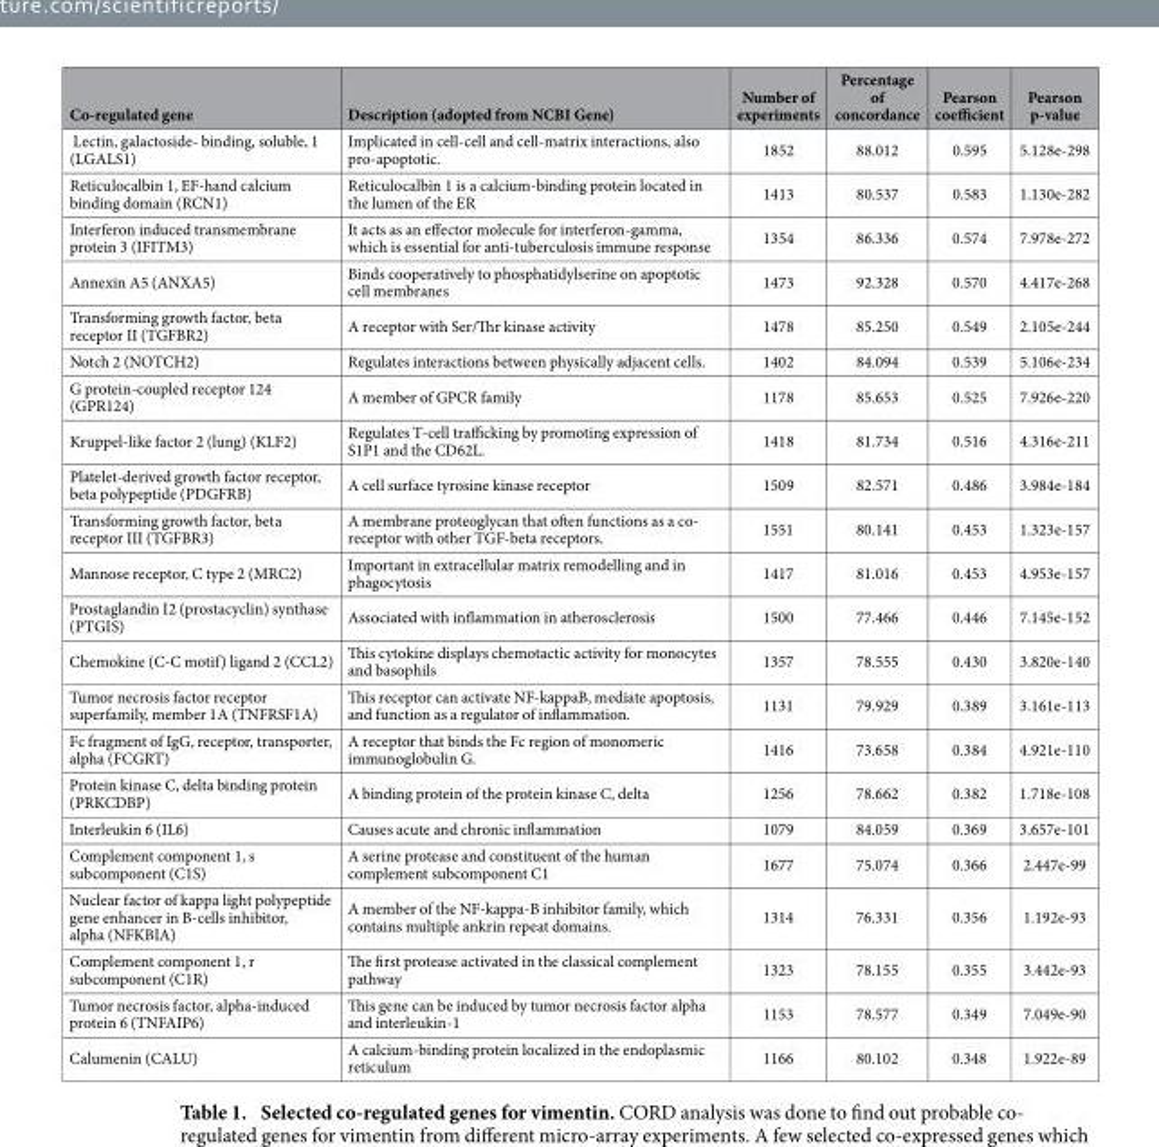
<table><thead><tr><td>Co-regulated gene</td><td>Description (adopted from NCBI Gene)</td><td>Number of experiments</td><td>Percentage of concordance</td><td>Pearson coefficient</td><td>Pearson p-value</td></tr></thead><tbody><tr><td>Lectin, galactoside- binding, soluble, 1 (LGALS1)</td><td>Implicated in cell-cell and cell-matrix interactions, also pro-apoptotic.</td><td>1852</td><td>88.012</td><td>0.595</td><td>5.128e-298</td></tr><tr><td>Reticulocalbin 1, EF-hand calcium binding domain (RCN1)</td><td>Reticulocalbin 1 is a calcium-binding protein located in the lumen of the ER</td><td>1413</td><td>80.537</td><td>0.583</td><td>1.130e-282</td></tr><tr><td>Interferon induced transmembrane protein 3 (IFITM3)</td><td>It acts as an effector molecule for interferon-gamma, which is essential for anti-tuberculosis immune response</td><td>1354</td><td>86.336</td><td>0.574</td><td>7.978e-272</td></tr><tr><td>Annexin A5 (ANXA5)</td><td>Binds cooperatively to phosphatidylserine on apoptotic cell membranes</td><td>1473</td><td>92.328</td><td>0.570</td><td>4.417e-268</td></tr><tr><td>Transforming growth factor, beta receptor II (TGFBR2)</td><td>A receptor with Ser/Thr kinase activity</td><td>1478</td><td>85.250</td><td>0.549</td><td>2.105e-244</td></tr><tr><td>Notch 2 (NOTCH2)</td><td>Regulates interactions between physically adjacent cells.</td><td>1402</td><td>84.094</td><td>0.539</td><td>5.106e-234</td></tr><tr><td>G protein-coupled receptor 124 (GPR124)</td><td>A member of GPCR family</td><td>1178</td><td>85.653</td><td>0.525</td><td>7.926e-220</td></tr><tr><td>Kruppel-like factor 2 (lung) (KLF2)</td><td>Regulates T-cell trafficking by promoting expression of S1P1 and the CD62L.</td><td>1418</td><td>81.734</td><td>0.516</td><td>4.316e-211</td></tr><tr><td>Platelet-derived growth factor receptor, beta polypeptide (PDGFRB)</td><td>A cell surface tyrosine kinase receptor</td><td>1509</td><td>82.571</td><td>0.486</td><td>3.984e-184</td></tr><tr><td>Transforming growth factor, beta receptor III (TGFBR3)</td><td>A membrane proteoglycan that often functions as a co- receptor with other TGF-beta receptors.</td><td>1551</td><td>80.141</td><td>0.453</td><td>1.323e-157</td></tr><tr><td>Mannose receptor, C type 2 (MRC2)</td><td>Important in extracellular matrix remodelling and in phagocytosis</td><td>1417</td><td>81.016</td><td>0.453</td><td>4.953e-157</td></tr><tr><td>Prostaglandin I2 (prostacyclin) synthase (PTGIS)</td><td>Associated with inflammation in atherosclerosis</td><td>1500</td><td>77.466</td><td>0.446</td><td>7.145e-152</td></tr><tr><td>Chemokine (C-C motif) ligand 2 (CCL2)</td><td>This cytokine displays chemotactic activity for monocytes and basophils</td><td>1357</td><td>78.555</td><td>0.430</td><td>3.820e-140</td></tr><tr><td>Tumor necrosis factor receptor superfamily, member 1A (TNFRSF1A)</td><td>This receptor can activate NF-kappaB, mediate apoptosis, and function as a regulator of inflammation.</td><td>1131</td><td>79.929</td><td>0.389</td><td>3.161e-113</td></tr><tr><td>Fc fragment of IgG, receptor, transporter, alpha (FCGRT)</td><td>A receptor that binds the Fc region of monomeric immunoglobulin G.</td><td>1416</td><td>73.658</td><td>0.384</td><td>4.921e-110</td></tr><tr><td>Protein kinase C, delta binding protein (PRKCDBP)</td><td>A binding protein of the protein kinase C, delta</td><td>1256</td><td>78.662</td><td>0.382</td><td>1.718e-108</td></tr><tr><td>Interleukin 6 (IL6)</td><td>Causes acute and chronic inflammation</td><td>1079</td><td>84.059</td><td>0.369</td><td>3.657e-101</td></tr><tr><td>Complement component 1, s subcomponent (C1S)</td><td>A serine protease and constituent of the human complement subcomponent C1</td><td>1677</td><td>75.074</td><td>0.366</td><td>2.447e-99</td></tr><tr><td>Nuclear factor of kappa light polypeptide gene enhancer in B-cells inhibitor, alpha (NFKBIA)</td><td>A member of the NF-kappa-B inhibitor family, which contains multiple ankrin repeat domains.</td><td>1314</td><td>76.331</td><td>0.356</td><td>1.192e-93</td></tr><tr><td>Complement component 1, r subcomponent (C1R)</td><td>The first protease activated in the classical complement pathway</td><td>1323</td><td>78.155</td><td>0.355</td><td>3.442e-93</td></tr><tr><td>Tumor necrosis factor, alpha-induced protein 6 (TNFAIP6)</td><td>This gene can be induced by tumor necrosis factor alpha and interleukin-1</td><td>1153</td><td>78.577</td><td>0.349</td><td>7.049e-90</td></tr><tr><td>Calumenin (CALU)</td><td>A calcium-binding protein localized in the endoplasmic reticulum</td><td>1166</td><td>80.102</td><td>0.348</td><td>1.922e-89</td></tr></tbody></table>